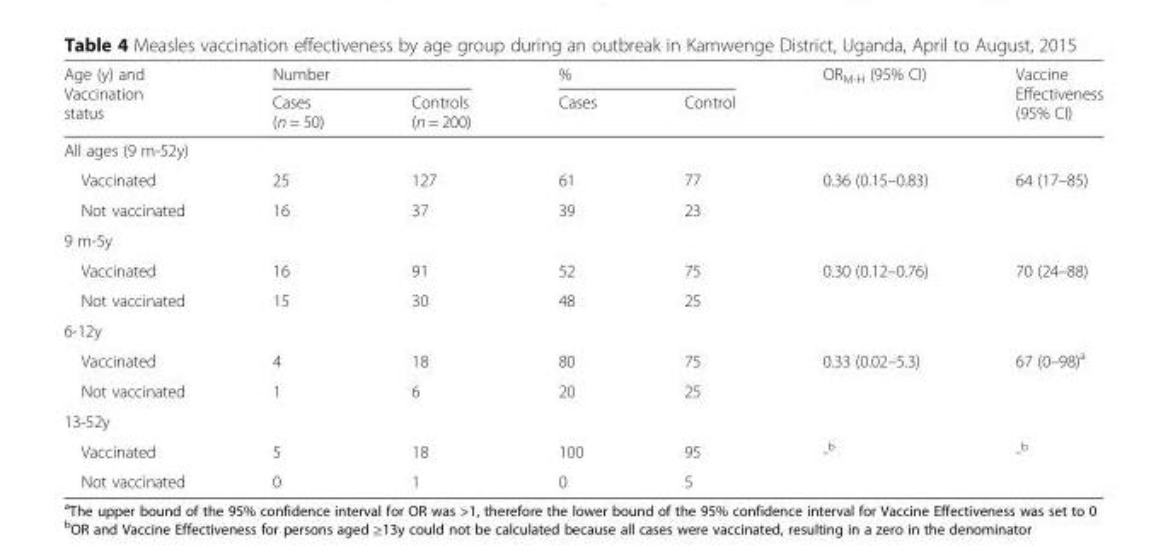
<table><thead><tr><td rowspan="2">Age (y) and Vaccination status</td><td colspan="2">Number</td><td colspan="2">%</td><td rowspan="2">OR<sub>M-H</sub> (95% CI)</td><td rowspan="2">Vaccine Effectiveness (95% CI)</td></tr><tr><td>Cases (n = 50)</td><td>Controls (n = 200)</td><td>Cases</td><td>Control</td></tr></thead><tbody><tr><td colspan="7">All ages (9 m-52y)</td></tr><tr><td>Vaccinated</td><td>25</td><td>127</td><td>61</td><td>77</td><td>0.36 (0.15–0.83)</td><td>64 (17–85)</td></tr><tr><td>Not vaccinated</td><td>16</td><td>37</td><td>39</td><td>23</td><td></td><td></td></tr><tr><td colspan="7">9 m-5y</td></tr><tr><td>Vaccinated</td><td>16</td><td>91</td><td>52</td><td>75</td><td>0.30 (0.12–0.76)</td><td>70 (24–88)</td></tr><tr><td>Not vaccinated</td><td>15</td><td>30</td><td>48</td><td>25</td><td></td><td></td></tr><tr><td colspan="7">6-12y</td></tr><tr><td>Vaccinated</td><td>4</td><td>18</td><td>80</td><td>75</td><td>0.33 (0.02–5.3)</td><td>67 (0–98)<sup>a</sup></td></tr><tr><td>Not vaccinated</td><td>1</td><td>6</td><td>20</td><td>25</td><td></td><td></td></tr><tr><td colspan="7">13-52y</td></tr><tr><td>Vaccinated</td><td>5</td><td>18</td><td>100</td><td>95</td><td>-<sup>b</sup></td><td>-<sup>b</sup></td></tr><tr><td>Not vaccinated</td><td>0</td><td>1</td><td>0</td><td>5</td><td></td><td></td></tr></tbody></table>